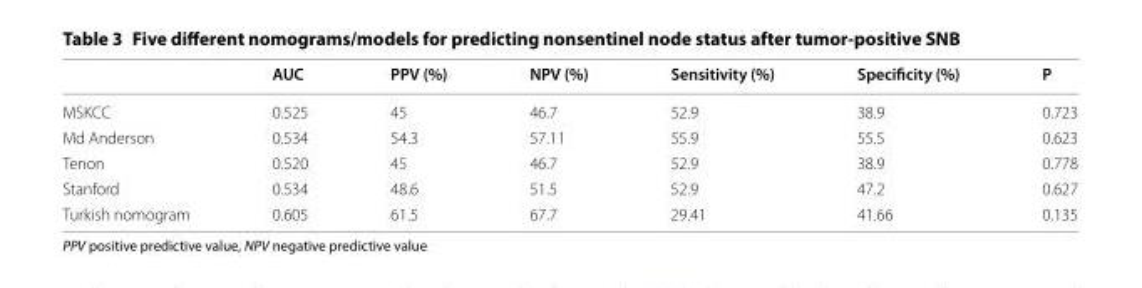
<table><thead><tr><td></td><td>AUC</td><td>PPV (%)</td><td>NPV (%)</td><td>Sensitivity (%)</td><td>Specificity (%)</td><td>P</td></tr></thead><tbody><tr><td>MSKCC</td><td>0.525</td><td>45</td><td>46.7</td><td>52.9</td><td>38.9</td><td>0.723</td></tr><tr><td>Md Anderson</td><td>0.534</td><td>54.3</td><td>57.11</td><td>55.9</td><td>55.5</td><td>0.623</td></tr><tr><td>Tenon</td><td>0.520</td><td>45</td><td>46.7</td><td>52.9</td><td>38.9</td><td>0.778</td></tr><tr><td>Stanford</td><td>0.534</td><td>48.6</td><td>51.5</td><td>52.9</td><td>47.2</td><td>0.627</td></tr><tr><td>Turkish nomogram</td><td>0.605</td><td>61.5</td><td>67.7</td><td>29.41</td><td>41.66</td><td>0.135</td></tr></tbody></table>